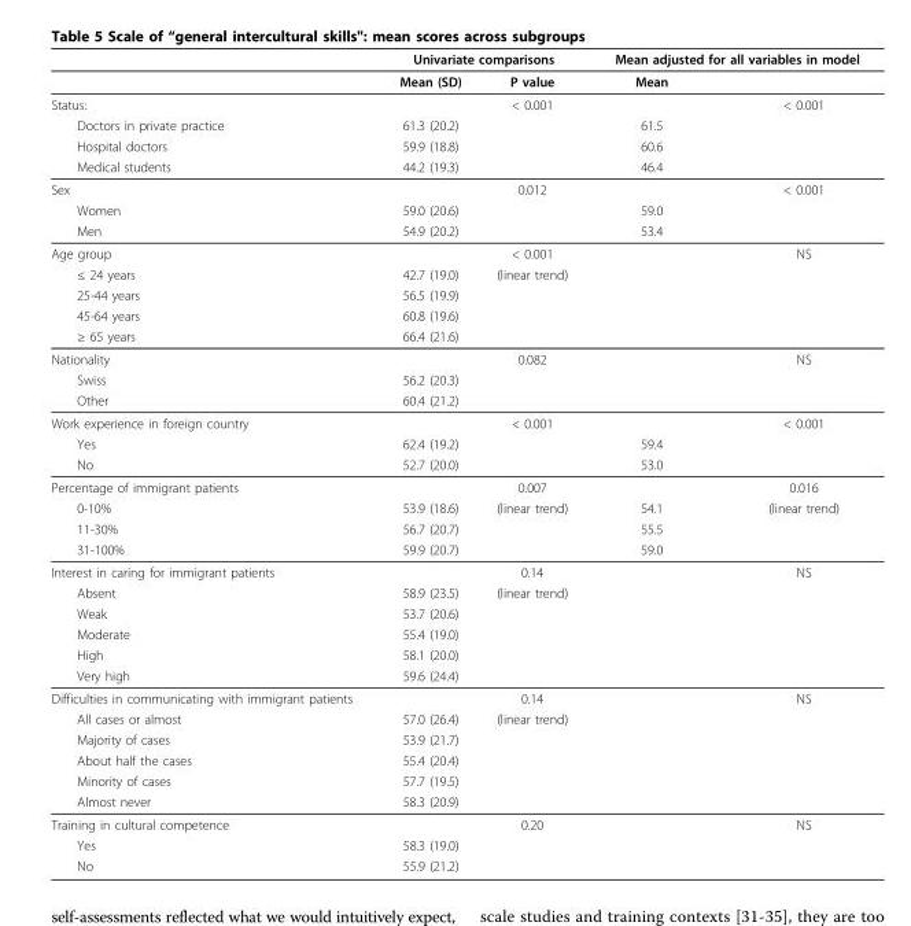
<table><thead><tr><td rowspan="2"></td><td colspan="2">Univariate comparisons</td><td colspan="2">Mean adjusted for all variables in model</td></tr><tr><td>Mean (SD)</td><td>P value</td><td>Mean</td><td></td></tr></thead><tbody><tr><td>Status:</td><td></td><td>&lt; 0.001</td><td></td><td>&lt; 0.001</td></tr><tr><td>Doctors in private practice</td><td>61.3 (20.2)</td><td></td><td>61.5</td><td></td></tr><tr><td>Hospital doctors</td><td>59.9 (18.8)</td><td></td><td>60.6</td><td></td></tr><tr><td>Medical students</td><td>44.2 (19.3)</td><td></td><td>46.4</td><td></td></tr><tr><td>Sex</td><td></td><td>0.012</td><td></td><td>&lt; 0.001</td></tr><tr><td>Women</td><td>59.0 (20.6)</td><td></td><td>59.0</td><td></td></tr><tr><td>Men</td><td>54.9 (20.2)</td><td></td><td>53.4</td><td></td></tr><tr><td>Age group</td><td></td><td>&lt; 0.001</td><td></td><td>NS</td></tr><tr><td>≤ 24 years</td><td>42.7 (19.0)</td><td>(linear trend)</td><td></td><td></td></tr><tr><td>25-44 years</td><td>56.5 (19.9)</td><td></td><td></td><td></td></tr><tr><td>45-64 years</td><td>60.8 (19.6)</td><td></td><td></td><td></td></tr><tr><td>≥ 65 years</td><td>66.4 (21.6)</td><td></td><td></td><td></td></tr><tr><td>Nationality</td><td></td><td>0.082</td><td></td><td>NS</td></tr><tr><td>Swiss</td><td>56.2 (20.3)</td><td></td><td></td><td></td></tr><tr><td>Other</td><td>60.4 (21.2)</td><td></td><td></td><td></td></tr><tr><td>Work experience in foreign country</td><td></td><td>&lt; 0.001</td><td></td><td>&lt; 0.001</td></tr><tr><td>Yes</td><td>62.4 (19.2)</td><td></td><td>59.4</td><td></td></tr><tr><td>No</td><td>52.7 (20.0)</td><td></td><td>53.0</td><td></td></tr><tr><td>Percentage of immigrant patients</td><td></td><td>0.007</td><td></td><td>0.016</td></tr><tr><td>0-10%</td><td>53.9 (18.6)</td><td>(linear trend)</td><td>54.1</td><td>(linear trend)</td></tr><tr><td>11-30%</td><td>56.7 (20.7)</td><td></td><td>55.5</td><td></td></tr><tr><td>31-100%</td><td>59.9 (20.7)</td><td></td><td>59.0</td><td></td></tr><tr><td>Interest in caring for immigrant patients</td><td></td><td>0.14</td><td></td><td>NS</td></tr><tr><td>Absent</td><td>58.9 (23.5)</td><td>(linear trend)</td><td></td><td></td></tr><tr><td>Weak</td><td>53.7 (20.6)</td><td></td><td></td><td></td></tr><tr><td>Moderate</td><td>55.4 (19.0)</td><td></td><td></td><td></td></tr><tr><td>High</td><td>58.1 (20.0)</td><td></td><td></td><td></td></tr><tr><td>Very high</td><td>59.6 (24.4)</td><td></td><td></td><td></td></tr><tr><td>Difficulties in communicating with immigrant patients</td><td></td><td>0.14</td><td></td><td>NS</td></tr><tr><td>All cases or almost</td><td>57.0 (26.4)</td><td>(linear trend)</td><td></td><td></td></tr><tr><td>Majority of cases</td><td>53.9 (21.7)</td><td></td><td></td><td></td></tr><tr><td>About half the cases</td><td>55.4 (20.4)</td><td></td><td></td><td></td></tr><tr><td>Minority of cases</td><td>57.7 (19.5)</td><td></td><td></td><td></td></tr><tr><td>Almost never</td><td>58.3 (20.9)</td><td></td><td></td><td></td></tr><tr><td>Training in cultural competence</td><td></td><td>0.20</td><td></td><td>NS</td></tr><tr><td>Yes</td><td>58.3 (19.0)</td><td></td><td></td><td></td></tr><tr><td>No</td><td>55.9 (21.2)</td><td></td><td></td><td></td></tr></tbody></table>